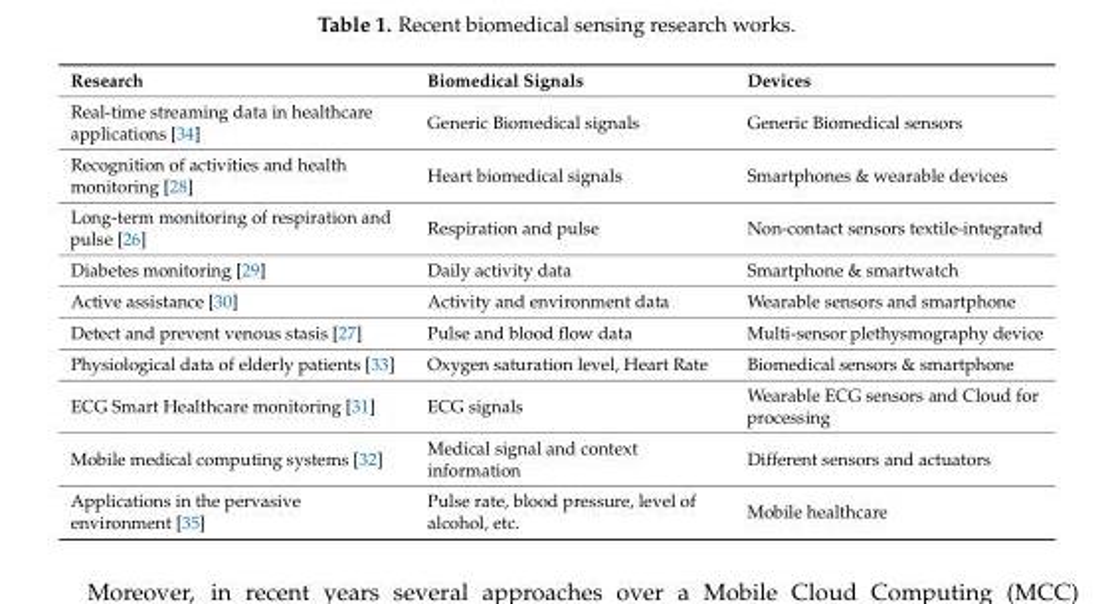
<table><thead><tr><td>Research</td><td>Biomedical Signals</td><td>Devices</td></tr></thead><tbody><tr><td>Real-time streaming data in healthcare applications [34]</td><td>Generic Biomedical signals</td><td>Generic Biomedical sensors</td></tr><tr><td>Recognition of activities and health monitoring [28]</td><td>Heart biomedical signals</td><td>Smartphones &amp; wearable devices</td></tr><tr><td>Long-term monitoring of respiration and pulse [26]</td><td>Respiration and pulse</td><td>Non-contact sensors textile-integrated</td></tr><tr><td>Diabetes monitoring [29]</td><td>Daily activity data</td><td>Smartphone &amp; smartwatch</td></tr><tr><td>Active assistance [30]</td><td>Activity and environment data</td><td>Wearable sensors and smartphone</td></tr><tr><td>Detect and prevent venous stasis [27]</td><td>Pulse and blood flow data</td><td>Multi-sensor plethysmography device</td></tr><tr><td>Physiological data of elderly patients [33]</td><td>Oxygen saturation level, Heart Rate</td><td>Biomedical sensors &amp; smartphone</td></tr><tr><td>ECG Smart Healthcare monitoring [31]</td><td>ECG signals</td><td>Wearable ECG sensors and Cloud for processing</td></tr><tr><td>Mobile medical computing systems [32]</td><td>Medical signal and context information</td><td>Different sensors and actuators</td></tr><tr><td>Applications in the pervasive environment [35]</td><td>Pulse rate, blood pressure, level of alcohol, etc.</td><td>Mobile healthcare</td></tr></tbody></table>